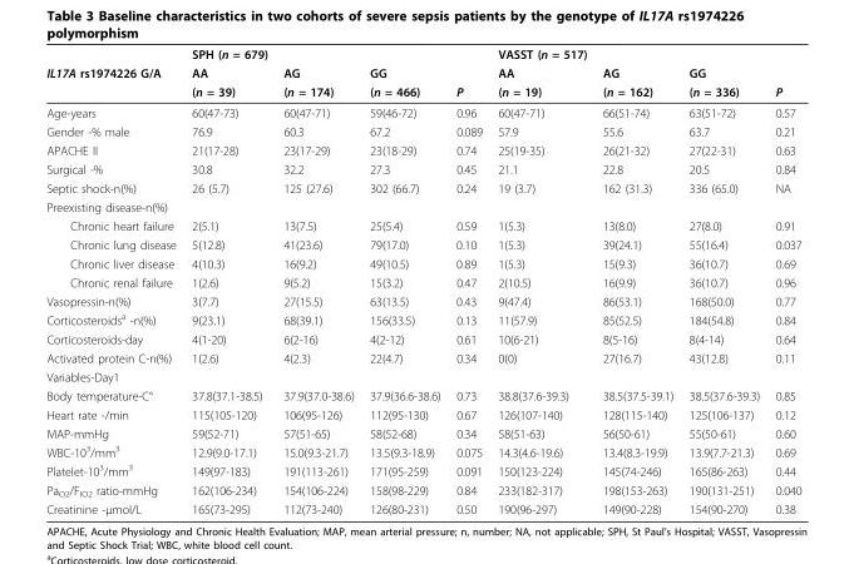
<table><thead><tr><td rowspan="3">IL17A rs1974226 G/A</td><td rowspan="3">SPH (n = 679) AA (n = 39)</td><td rowspan="3">AG (n = 174)</td><td rowspan="3">GG (n = 466)</td><td rowspan="3">P</td><td rowspan="3">VASST (n = 517) AA (n = 19)</td><td rowspan="3">AG (n = 162)</td><td rowspan="3">GG (n = 336)</td><td rowspan="3">P</td></tr><tr></tr><tr></tr></thead><tbody><tr><td>Age-years</td><td>60(47-73)</td><td>60(47-71)</td><td>59(46-72)</td><td>0.96</td><td>60(47-71)</td><td>66(51-74)</td><td>63(51-72)</td><td>0.57</td></tr><tr><td>Gender -% male</td><td>76.9</td><td>60.3</td><td>67.2</td><td>0.089</td><td>57.9</td><td>55.6</td><td>63.7</td><td>0.21</td></tr><tr><td>APACHE II</td><td>21(17-28)</td><td>23(17-29)</td><td>23(18-29)</td><td>0.74</td><td>25(19-35)</td><td>26(21-32)</td><td>27(22-31)</td><td>0.63</td></tr><tr><td>Surgical -%</td><td>30.8</td><td>32.2</td><td>27.3</td><td>0.45</td><td>21.1</td><td>22.8</td><td>20.5</td><td>0.84</td></tr><tr><td>Septic shock-n(%)</td><td>26 (5.7)</td><td>125 (27.6)</td><td>302 (66.7)</td><td>0.24</td><td>19 (3.7)</td><td>162 (31.3)</td><td>336 (65.0)</td><td>NA</td></tr><tr><td colspan="9">Preexisting disease-n(%)</td></tr><tr><td>Chronic heart failure</td><td>2(5.1)</td><td>13(7.5)</td><td>25(5.4)</td><td>0.59</td><td>1(5.3)</td><td>13(8.0)</td><td>27(8.0)</td><td>0.91</td></tr><tr><td>Chronic lung disease</td><td>5(12.8)</td><td>41(23.6)</td><td>79(17.0)</td><td>0.10</td><td>1(5.3)</td><td>39(24.1)</td><td>55(16.4)</td><td>0.037</td></tr><tr><td>Chronic liver disease</td><td>4(10.3)</td><td>16(9.2)</td><td>49(10.5)</td><td>0.89</td><td>1(5.3)</td><td>15(9.3)</td><td>36(10.7)</td><td>0.69</td></tr><tr><td>Chronic renal failure</td><td>1(2.6)</td><td>9(5.2)</td><td>15(3.2)</td><td>0.47</td><td>2(10.5)</td><td>16(9.9)</td><td>36(10.7)</td><td>0.96</td></tr><tr><td>Vasopressin-n(%)</td><td>3(7.7)</td><td>27(15.5)</td><td>63(13.5)</td><td>0.43</td><td>9(47.4)</td><td>86(53.1)</td><td>168(50.0)</td><td>0.77</td></tr><tr><td>Corticosteroids<sup>a</sup> -n(%)</td><td>9(23.1)</td><td>68(39.1)</td><td>156(33.5)</td><td>0.13</td><td>11(57.9)</td><td>85(52.5)</td><td>184(54.8)</td><td>0.84</td></tr><tr><td>Corticosteroids-day</td><td>4(1-20)</td><td>6(2-16)</td><td>4(2-12)</td><td>0.61</td><td>10(6-21)</td><td>8(5-16)</td><td>8(4-14)</td><td>0.64</td></tr><tr><td>Activated protein C-n(%)</td><td>1(2.6)</td><td>4(2.3)</td><td>22(4.7)</td><td>0.34</td><td>0(0)</td><td>27(16.7)</td><td>43(12.8)</td><td>0.11</td></tr><tr><td colspan="9">Variables-Day1</td></tr><tr><td>Body temperature-C°</td><td>37.8(37.1-38.5)</td><td>37.9(37.0-38.6)</td><td>37.9(36.6-38.6)</td><td>0.73</td><td>38.8(37.6-39.3)</td><td>38.5(37.5-39.1)</td><td>38.5(37.6-39.3)</td><td>0.85</td></tr><tr><td>Heart rate -/min</td><td>115(105-120)</td><td>106(95-126)</td><td>112(95-130)</td><td>0.67</td><td>126(107-140)</td><td>128(115-140)</td><td>125(106-137)</td><td>0.12</td></tr><tr><td>MAP-mmHg</td><td>59(52-71)</td><td>57(51-65)</td><td>58(52-68)</td><td>0.34</td><td>58(51-63)</td><td>56(50-61)</td><td>55(50-61)</td><td>0.60</td></tr><tr><td>WBC-10<sup>3</sup>/mm<sup>3</sup></td><td>12.9(9.0-17.1)</td><td>15.0(9.3-21.7)</td><td>13.5(9.3-18.9)</td><td>0.075</td><td>14.3(4.6-19.6)</td><td>13.4(8.3-19.9)</td><td>13.9(7.7-21.3)</td><td>0.69</td></tr><tr><td>Platelet-10<sup>3</sup>/mm<sup>3</sup></td><td>149(97-183)</td><td>191(113-261)</td><td>171(95-259)</td><td>0.091</td><td>150(123-224)</td><td>145(74-246)</td><td>165(86-263)</td><td>0.44</td></tr><tr><td>Pa<sub>O2</sub>/F<sub>IO2</sub> ratio-mmHg</td><td>162(106-234)</td><td>154(106-224)</td><td>158(98-229)</td><td>0.84</td><td>233(182-317)</td><td>198(153-263)</td><td>190(131-251)</td><td>0.040</td></tr><tr><td>Creatinine -μmol/L</td><td>165(73-295)</td><td>112(73-240)</td><td>126(80-231)</td><td>0.50</td><td>190(96-297)</td><td>149(90-228)</td><td>154(90-270)</td><td>0.38</td></tr></tbody></table>